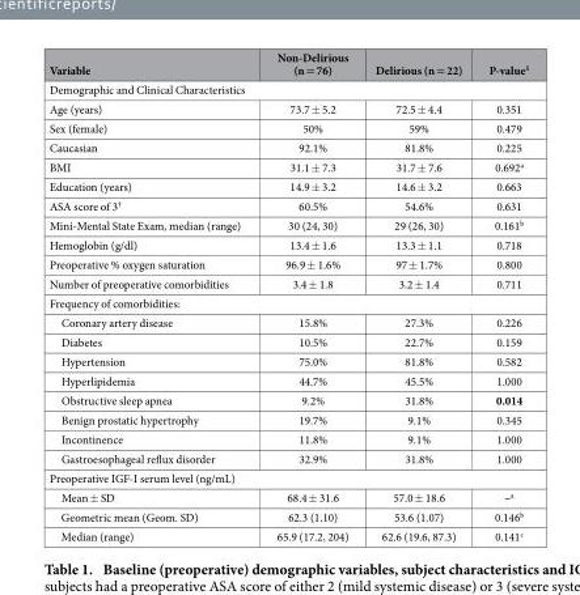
<table><thead><tr><td>Variable</td><td>Non-Delirious (n = 76)</td><td>Delirious (n = 22)</td><td>P-value<sup>1</sup></td></tr></thead><tbody><tr><td colspan="4">Demographic and Clinical Characteristics</td></tr><tr><td>Age (years)</td><td>73.7 ± 5.2</td><td>72.5 ± 4.4</td><td>0.351</td></tr><tr><td>Sex (female)</td><td>50%</td><td>59%</td><td>0.479</td></tr><tr><td>Caucasian</td><td>92.1%</td><td>81.8%</td><td>0.225</td></tr><tr><td>BMI</td><td>31.1 ± 7.3</td><td>31.7 ± 7.6</td><td>0.692<sup>a</sup></td></tr><tr><td>Education (years)</td><td>14.9 ± 3.2</td><td>14.6 ± 3.2</td><td>0.663</td></tr><tr><td>ASA score of 3<sup>†</sup></td><td>60.5%</td><td>54.6%</td><td>0.631</td></tr><tr><td>Mini-Mental State Exam, median (range)</td><td>30 (24, 30)</td><td>29 (26, 30)</td><td>0.161<sup>b</sup></td></tr><tr><td>Hemoglobin (g/dl)</td><td>13.4 ± 1.6</td><td>13.3 ± 1.1</td><td>0.718</td></tr><tr><td>Preoperative % oxygen saturation</td><td>96.9 ± 1.6%</td><td>97 ± 1.7%</td><td>0.800</td></tr><tr><td>Number of preoperative comorbidities</td><td>3.4 ± 1.8</td><td>3.2 ± 1.4</td><td>0.711</td></tr><tr><td colspan="4">Frequency of comorbidities:</td></tr><tr><td>Coronary artery disease</td><td>15.8%</td><td>27.3%</td><td>0.226</td></tr><tr><td>Diabetes</td><td>10.5%</td><td>22.7%</td><td>0.159</td></tr><tr><td>Hypertension</td><td>75.0%</td><td>81.8%</td><td>0.582</td></tr><tr><td>Hyperlipidemia</td><td>44.7%</td><td>45.5%</td><td>1.000</td></tr><tr><td>Obstructive sleep apnea</td><td>9.2%</td><td>31.8%</td><td>0.014</td></tr><tr><td>Benign prostatic hypertrophy</td><td>19.7%</td><td>9.1%</td><td>0.345</td></tr><tr><td>Incontinence</td><td>11.8%</td><td>9.1%</td><td>1.000</td></tr><tr><td>Gastroesophageal reflux disorder</td><td>32.9%</td><td>31.8%</td><td>1.000</td></tr><tr><td colspan="4">Preoperative IGF-I serum level (ng/mL)</td></tr><tr><td>Mean ± SD</td><td>68.4 ± 31.6</td><td>57.0 ± 18.6</td><td>–a</td></tr><tr><td>Geometric mean (Geom. SD)</td><td>62.3 (1.10)</td><td>53.6 (1.07)</td><td>0.146<sup>b</sup></td></tr><tr><td>Median (range)</td><td>65.9 (17.2, 204)</td><td>62.6 (19.6, 87.3)</td><td>0.141<sup>c</sup></td></tr></tbody></table>